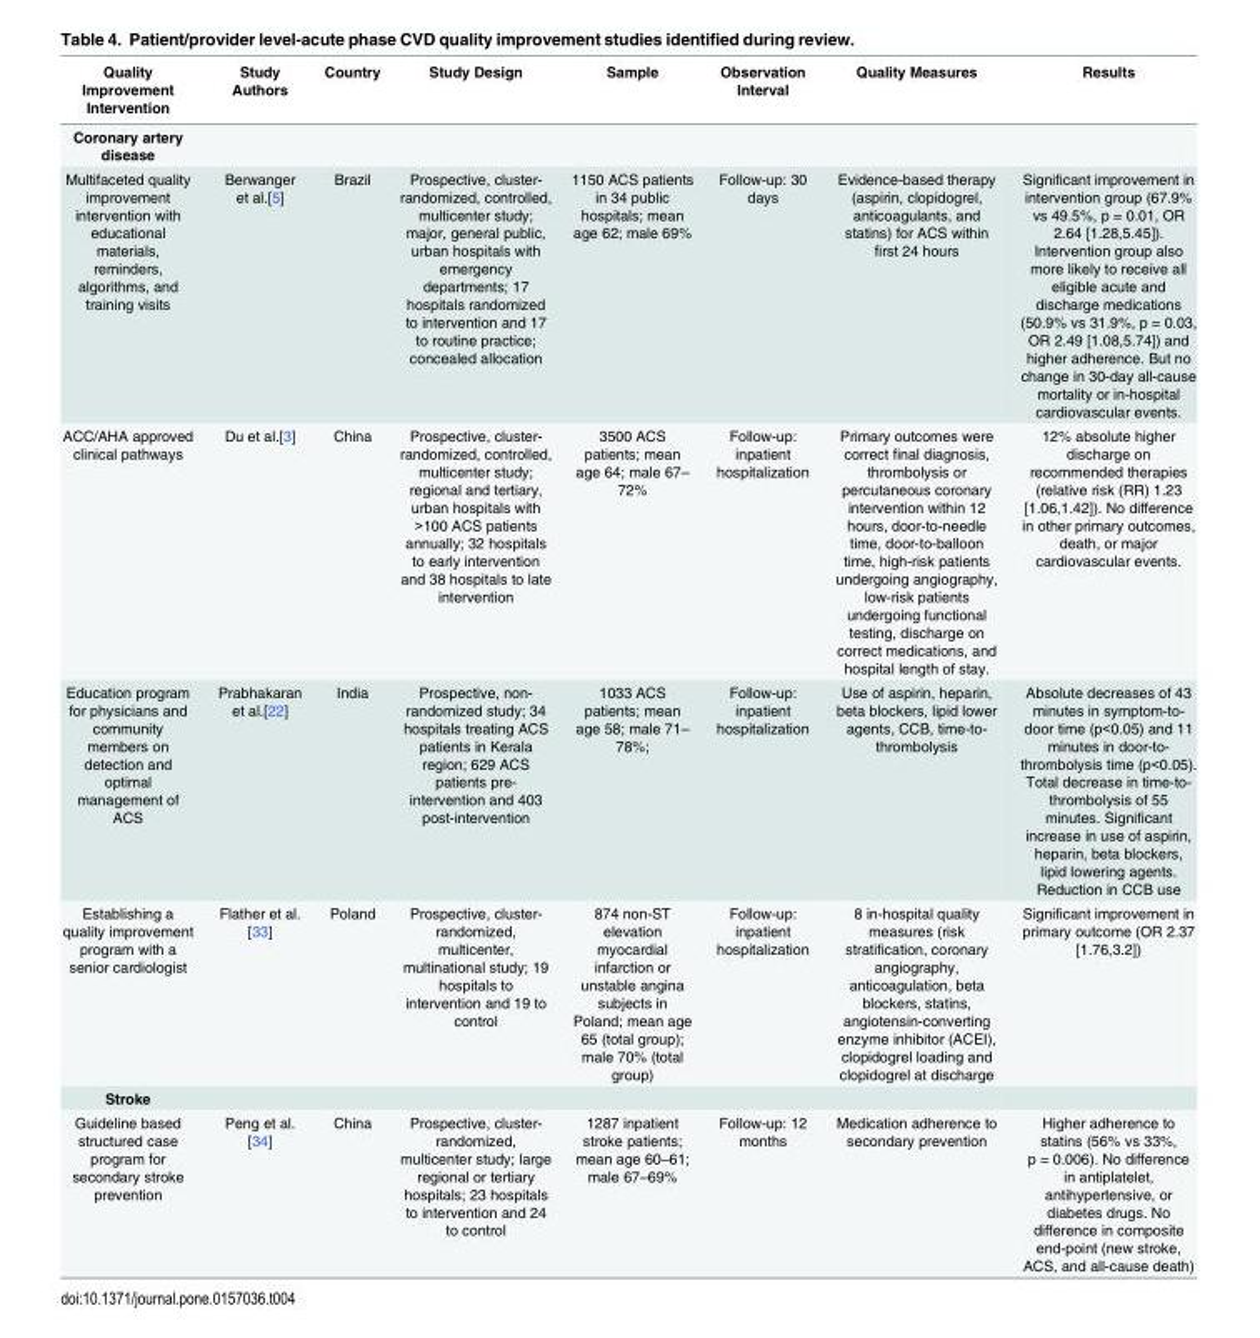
<table><thead><tr><td>Quality Improvement Intervention</td><td>Study Authors</td><td>Country</td><td>Study Design</td><td>Sample</td><td>Observation Interval</td><td>Quality Measures</td><td>Results</td></tr></thead><tbody><tr><td colspan="8">Coronary artery disease</td></tr><tr><td>Multifaceted quality improvement intervention with educational materials, reminders, algorithms, and training visits</td><td>Berwanger et al.[5]</td><td>Brazil</td><td>Prospective, cluster- randomized, controlled, multicenter study; major, general public, urban hospitals with emergency departments; 17 hospitals randomized to intervention and 17 to routine practice; concealed allocation</td><td>1150 ACS patients in 34 public hospitals; mean age 62; male 69%</td><td>Follow-up: 30 days</td><td>Evidence-based therapy (aspirin, clopidogrel, anticoagulants, and statins) for ACS within first 24 hours</td><td>Significant improvement in intervention group (67.9% vs 49.5%, p = 0.01, OR 2.64 [1.28,5.45]). Intervention group also more likely to receive all eligible acute and discharge medications (50.9% vs 31.9%, p = 0.03, OR 2.49 [1.08,5.74]) and higher adherence. But no change in 30-day all-cause mortality or in-hospital cardiovascular events.</td></tr><tr><td>ACC/AHA approved clinical pathways</td><td>Du et al.[3]</td><td>China</td><td>Prospective, cluster- randomized, controlled, multicenter study; regional and tertiary, urban hospitals with &gt;100 ACS patients annually; 32 hospitals to early intervention and 38 hospitals to late intervention</td><td>3500 ACS patients; mean age 64; male 67– 72%</td><td>Follow-up: inpatient hospitalization</td><td>Primary outcomes were correct final diagnosis, thrombolysis or percutaneous coronary intervention within 12 hours, door-to-needle time, door-to-balloon time, high-risk patients undergoing angiography, low-risk patients undergoing functional testing, discharge on correct medications, and hospital length of stay.</td><td>12% absolute higher discharge on recommended therapies (relative risk (RR) 1.23 [1.06,1.42]). No difference in other primary outcomes, death, or major cardiovascular events.</td></tr><tr><td>Education program for physicians and community members on detection and optimal management of ACS</td><td>Prabhakaran et al.[22]</td><td>India</td><td>Prospective, non- randomized study; 34 hospitals treating ACS patients in Kerala region; 629 ACS patients pre- intervention and 403 post-intervention</td><td>1033 ACS patients; mean age 58; male 71– 78%;</td><td>Follow-up: inpatient hospitalization</td><td>Use of aspirin, heparin, beta blockers, lipid lower agents, CCB, time-to- thrombolysis</td><td>Absolute decreases of 43 minutes in symptom-to- door time (p&lt;0.05) and 11 minutes in door-to- thrombolysis time (p&lt;0.05). Total decrease in time-to- thrombolysis of 55 minutes. Significant increase in use of aspirin, heparin, beta blockers, lipid lowering agents. Reduction in CCB use</td></tr><tr><td>Establishing a quality improvement program with a senior cardiologist</td><td>Flather et al. [33]</td><td>Poland</td><td>Prospective, cluster- randomized, multicenter, multinational study; 19 hospitals to intervention and 19 to control</td><td>874 non-ST elevation myocardial infarction or unstable angina subjects in Poland; mean age 65 (total group); male 70% (total group)</td><td>Follow-up: inpatient hospitalization</td><td>8 in-hospital quality measures (risk stratification, coronary angiography, anticoagulation, beta blockers, statins, angiotensin-converting enzyme inhibitor (ACEI), clopidogrel loading and clopidogrel at discharge</td><td>Significant improvement in primary outcome (OR 2.37 [1.76,3.2])</td></tr><tr><td colspan="8">Stroke</td></tr><tr><td>Guideline based structured case program for secondary stroke prevention</td><td>Peng et al. [34]</td><td>China</td><td>Prospective, cluster- randomized, multicenter study; large regional or tertiary hospitals; 23 hospitals to intervention and 24 to control</td><td>1287 inpatient stroke patients; mean age 60–61; male 67–69%</td><td>Follow-up: 12 months</td><td>Medication adherence to secondary prevention</td><td>Higher adherence to statins (56% vs 33%, p = 0.006). No difference in antiplatelet, antihypertensive, or diabetes drugs. No difference in composite end-point (new stroke, ACS, and all-cause death)</td></tr></tbody></table>